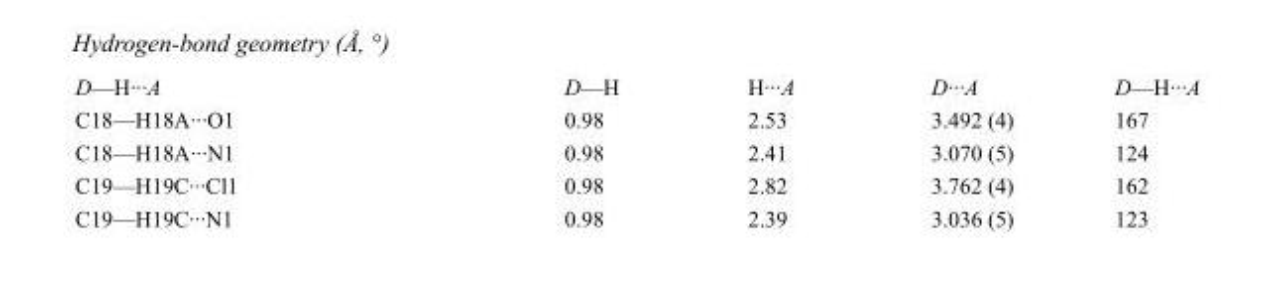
<table><tbody><tr><td>D—H···A</td><td>D—H</td><td>H···A</td><td>D···A</td><td>D—H···A</td></tr><tr><td>C18—H18A···O1</td><td>0.98</td><td>2.53</td><td>3.492 (4)</td><td>167</td></tr><tr><td>C18—H18A···N1</td><td>0.98</td><td>2.41</td><td>3.070 (5)</td><td>124</td></tr><tr><td>C19—H19C···Cl1</td><td>0.98</td><td>2.82</td><td>3.762 (4)</td><td>162</td></tr><tr><td>C19—H19C···N1</td><td>0.98</td><td>2.39</td><td>3.036 (5)</td><td>123</td></tr></tbody></table>